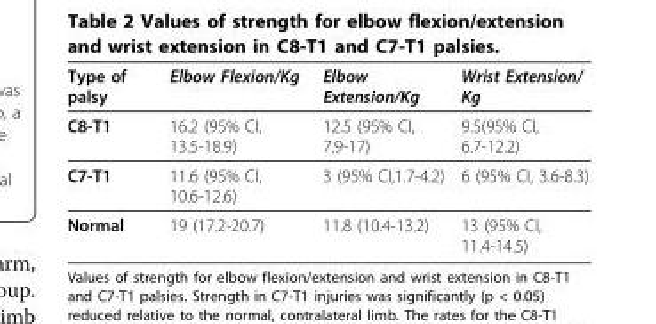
<table><thead><tr><td>Type of palsy</td><td>Elbow Flexion/Kg</td><td>Elbow Extension/Kg</td><td>Wrist Extension/ Kg</td></tr></thead><tbody><tr><td>C8-T1</td><td>16.2 (95% CI, 13.5-18.9)</td><td>12.5 (95% CI, 7.9-17)</td><td>9.5(95% CI, 6.7-12.2)</td></tr><tr><td>C7-T1</td><td>11.6 (95% CI, 10.6-12.6)</td><td>3 (95% CI,1.7-4.2)</td><td>6 (95% CI, 3.6-8.3)</td></tr><tr><td>Normal</td><td>19 (17.2-20.7)</td><td>11.8 (10.4-13.2)</td><td>13 (95% CI, 11.4-14.5)</td></tr></tbody></table>